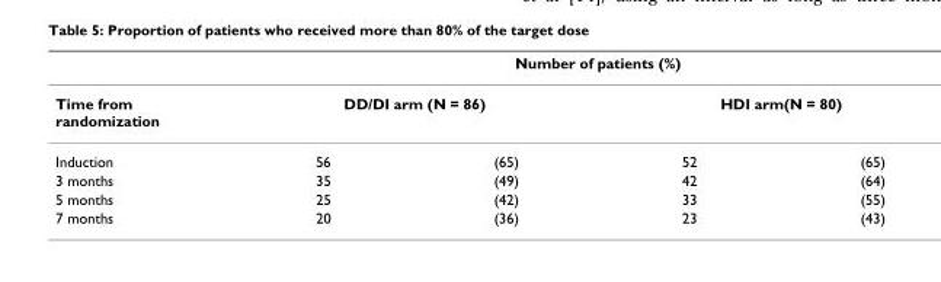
<table><thead><tr><td rowspan="3">Time from randomization Induction</td><td colspan="4">Number of patients (%)</td></tr><tr><td colspan="2">DD/DI arm (N = 86)</td><td colspan="2">HDI arm(N = 80)</td></tr><tr><td>56</td><td>(65)</td><td>52</td><td>(65)</td></tr></thead><tbody><tr><td>3 months</td><td>35</td><td>(49)</td><td>42</td><td>(64)</td></tr><tr><td>5 months</td><td>25</td><td>(42)</td><td>33</td><td>(55)</td></tr><tr><td>7 months</td><td>20</td><td>(36)</td><td>23</td><td>(43)</td></tr></tbody></table>